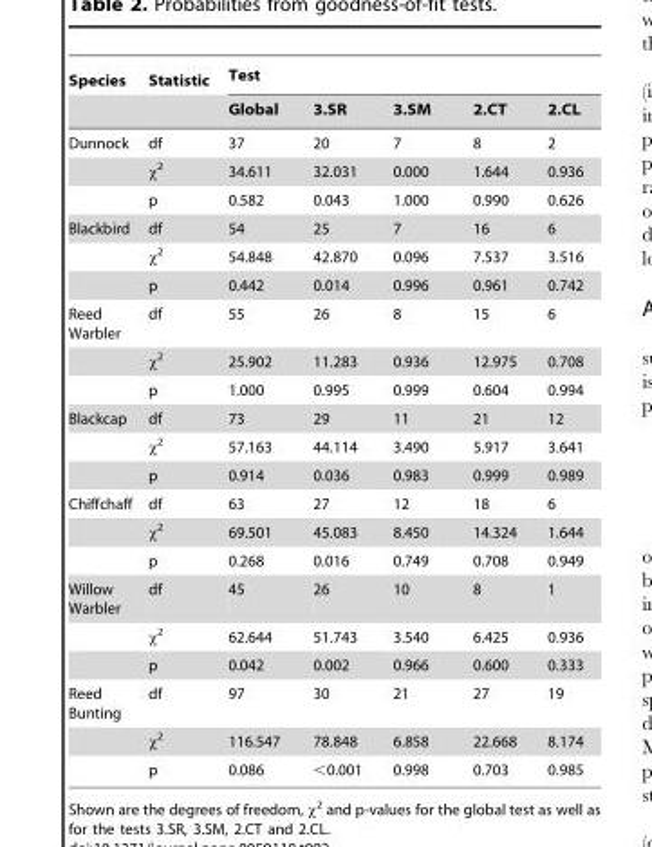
<table><thead><tr><td rowspan="2">Species</td><td rowspan="2">Statistic</td><td colspan="5">Test</td></tr><tr><td>Global</td><td>3.SR</td><td>3.SM</td><td>2.CT</td><td>2.CL</td></tr></thead><tbody><tr><td rowspan="3">Dunnock</td><td>df</td><td>37</td><td>20</td><td>7</td><td>8</td><td>2</td></tr><tr><td>χ<sup>2</sup></td><td>34.611</td><td>32.031</td><td>0.000</td><td>1.644</td><td>0.936</td></tr><tr><td>p</td><td>0.582</td><td>0.043</td><td>1.000</td><td>0.990</td><td>0.626</td></tr><tr><td rowspan="3">Blackbird</td><td>df</td><td>54</td><td>25</td><td>7</td><td>16</td><td>6</td></tr><tr><td>χ<sup>2</sup></td><td>54.848</td><td>42.870</td><td>0.096</td><td>7.537</td><td>3.516</td></tr><tr><td>p</td><td>0.442</td><td>0.014</td><td>0.996</td><td>0.961</td><td>0.742</td></tr><tr><td rowspan="3">Reed Warbler</td><td>df</td><td>55</td><td>26</td><td>8</td><td>15</td><td>6</td></tr><tr><td>χ<sup>2</sup></td><td>25.902</td><td>11.283</td><td>0.936</td><td>12.975</td><td>0.708</td></tr><tr><td>p</td><td>1.000</td><td>0.995</td><td>0.999</td><td>0.604</td><td>0.994</td></tr><tr><td rowspan="3">Blackcap</td><td>df</td><td>73</td><td>29</td><td>11</td><td>21</td><td>12</td></tr><tr><td>χ<sup>2</sup></td><td>57.163</td><td>44.114</td><td>3.490</td><td>5.917</td><td>3.641</td></tr><tr><td>p</td><td>0.914</td><td>0.036</td><td>0.983</td><td>0.999</td><td>0.989</td></tr><tr><td rowspan="3">Chiffchaff</td><td>df</td><td>63</td><td>27</td><td>12</td><td>18</td><td>6</td></tr><tr><td>χ<sup>2</sup></td><td>69.501</td><td>45.083</td><td>8.450</td><td>14.324</td><td>1.644</td></tr><tr><td>p</td><td>0.268</td><td>0.016</td><td>0.749</td><td>0.708</td><td>0.949</td></tr><tr><td rowspan="3">Willow Warbler</td><td>df</td><td>45</td><td>26</td><td>10</td><td>8</td><td>1</td></tr><tr><td>χ<sup>2</sup></td><td>62.644</td><td>51.743</td><td>3.540</td><td>6.425</td><td>0.936</td></tr><tr><td>p</td><td>0.042</td><td>0.002</td><td>0.966</td><td>0.600</td><td>0.333</td></tr><tr><td rowspan="3">Reed Bunting</td><td>df</td><td>97</td><td>30</td><td>21</td><td>27</td><td>19</td></tr><tr><td>χ<sup>2</sup></td><td>116.547</td><td>78.848</td><td>6.858</td><td>22.668</td><td>8.174</td></tr><tr><td>p</td><td>0.086</td><td>&lt;0.001</td><td>0.998</td><td>0.703</td><td>0.985</td></tr></tbody></table>